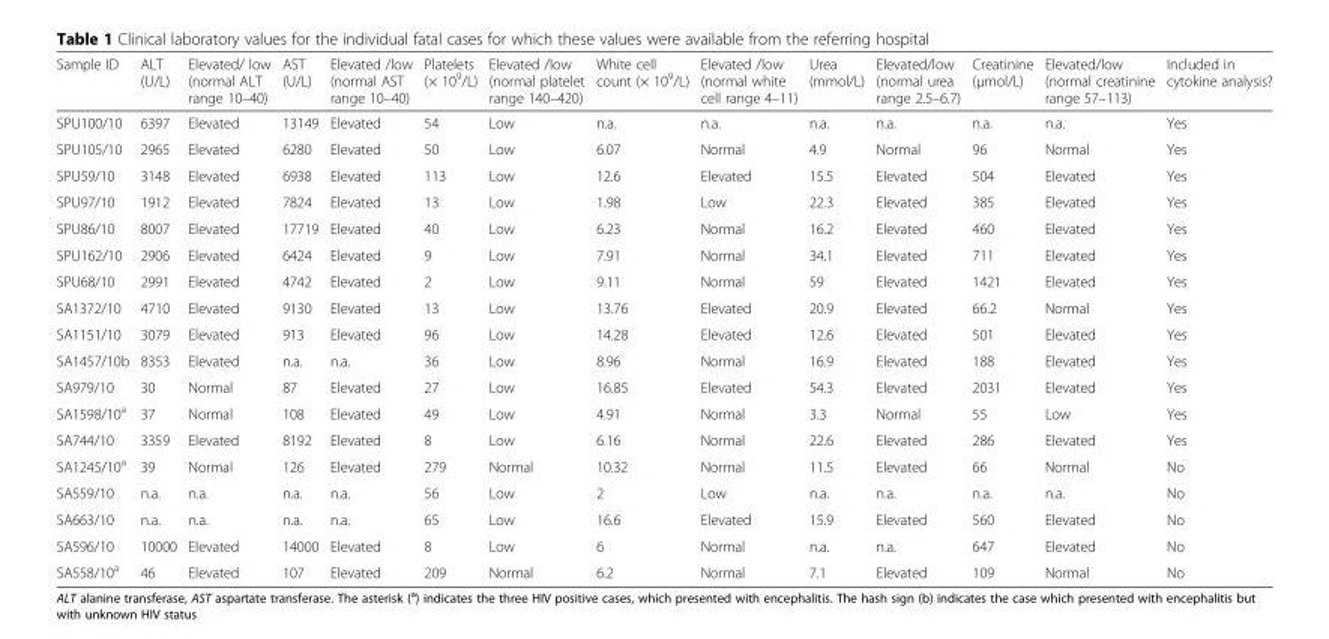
<table><thead><tr><td>Sample ID</td><td>ALT (U/L)</td><td>Elevated/ low (normal ALT range 10–40)</td><td>AST (U/L)</td><td>Elevated /low (normal AST range 10–40)</td><td>Platelets (× 10<sup>9</sup>/L)</td><td>Elevated /low (normal platelet range 140–420)</td><td>White cell count (× 10<sup>9</sup>/L)</td><td>Elevated /low (normal white cell range 4–11)</td><td>Urea (mmol/L)</td><td>Elevated/low (normal urea range 2.5–6.7)</td><td>Creatinine (μmol/L)</td><td>Elevated/low (normal creatinine range 57–113)</td><td>Included in cytokine analysis?</td></tr></thead><tbody><tr><td>SPU100/10</td><td>6397</td><td>Elevated</td><td>13149</td><td>Elevated</td><td>54</td><td>Low</td><td>n.a.</td><td>n.a.</td><td>n.a.</td><td>n.a.</td><td>n.a.</td><td>n.a.</td><td>Yes</td></tr><tr><td>SPU105/10</td><td>2965</td><td>Elevated</td><td>6280</td><td>Elevated</td><td>50</td><td>Low</td><td>6.07</td><td>Normal</td><td>4.9</td><td>Normal</td><td>96</td><td>Normal</td><td>Yes</td></tr><tr><td>SPU59/10</td><td>3148</td><td>Elevated</td><td>6938</td><td>Elevated</td><td>113</td><td>Low</td><td>12.6</td><td>Elevated</td><td>15.5</td><td>Elevated</td><td>504</td><td>Elevated</td><td>Yes</td></tr><tr><td>SPU97/10</td><td>1912</td><td>Elevated</td><td>7824</td><td>Elevated</td><td>13</td><td>Low</td><td>1.98</td><td>Low</td><td>22.3</td><td>Elevated</td><td>385</td><td>Elevated</td><td>Yes</td></tr><tr><td>SPU86/10</td><td>8007</td><td>Elevated</td><td>17719</td><td>Elevated</td><td>40</td><td>Low</td><td>6.23</td><td>Normal</td><td>16.2</td><td>Elevated</td><td>460</td><td>Elevated</td><td>Yes</td></tr><tr><td>SPU162/10</td><td>2906</td><td>Elevated</td><td>6424</td><td>Elevated</td><td>9</td><td>Low</td><td>7.91</td><td>Normal</td><td>34.1</td><td>Elevated</td><td>711</td><td>Elevated</td><td>Yes</td></tr><tr><td>SPU68/10</td><td>2991</td><td>Elevated</td><td>4742</td><td>Elevated</td><td>2</td><td>Low</td><td>9.11</td><td>Normal</td><td>59</td><td>Elevated</td><td>1421</td><td>Elevated</td><td>Yes</td></tr><tr><td>SA1372/10</td><td>4710</td><td>Elevated</td><td>9130</td><td>Elevated</td><td>13</td><td>Low</td><td>13.76</td><td>Elevated</td><td>20.9</td><td>Elevated</td><td>66.2</td><td>Normal</td><td>Yes</td></tr><tr><td>SA1151/10</td><td>3079</td><td>Elevated</td><td>913</td><td>Elevated</td><td>96</td><td>Low</td><td>14.28</td><td>Elevated</td><td>12.6</td><td>Elevated</td><td>501</td><td>Elevated</td><td>Yes</td></tr><tr><td>SA1457/10b</td><td>8353</td><td>Elevated</td><td>n.a.</td><td>n.a.</td><td>36</td><td>Low</td><td>8.96</td><td>Normal</td><td>16.9</td><td>Elevated</td><td>188</td><td>Elevated</td><td>Yes</td></tr><tr><td>SA979/10</td><td>30</td><td>Normal</td><td>87</td><td>Elevated</td><td>27</td><td>Low</td><td>16.85</td><td>Elevated</td><td>54.3</td><td>Elevated</td><td>2031</td><td>Elevated</td><td>Yes</td></tr><tr><td>SA1598/10<sup>a</sup></td><td>37</td><td>Normal</td><td>108</td><td>Elevated</td><td>49</td><td>Low</td><td>4.91</td><td>Normal</td><td>3.3</td><td>Normal</td><td>55</td><td>Low</td><td>Yes</td></tr><tr><td>SA744/10</td><td>3359</td><td>Elevated</td><td>8192</td><td>Elevated</td><td>8</td><td>Low</td><td>6.16</td><td>Normal</td><td>22.6</td><td>Elevated</td><td>286</td><td>Elevated</td><td>Yes</td></tr><tr><td>SA1245/10<sup>a</sup></td><td>39</td><td>Normal</td><td>126</td><td>Elevated</td><td>279</td><td>Normal</td><td>10.32</td><td>Normal</td><td>11.5</td><td>Elevated</td><td>66</td><td>Normal</td><td>No</td></tr><tr><td>SA559/10</td><td>n.a.</td><td>n.a.</td><td>n.a.</td><td>n.a.</td><td>56</td><td>Low</td><td>2</td><td>Low</td><td>n.a.</td><td>n.a.</td><td>n.a.</td><td>n.a.</td><td>No</td></tr><tr><td>SA663/10</td><td>n.a.</td><td>n.a.</td><td>n.a.</td><td>n.a.</td><td>65</td><td>Low</td><td>16.6</td><td>Elevated</td><td>15.9</td><td>Elevated</td><td>560</td><td>Elevated</td><td>No</td></tr><tr><td>SA596/10</td><td>10000</td><td>Elevated</td><td>14000</td><td>Elevated</td><td>8</td><td>Low</td><td>6</td><td>Normal</td><td>n.a.</td><td>n.a.</td><td>647</td><td>Elevated</td><td>No</td></tr><tr><td>SA558/10<sup>a</sup></td><td>46</td><td>Elevated</td><td>107</td><td>Elevated</td><td>209</td><td>Normal</td><td>6.2</td><td>Normal</td><td>7.1</td><td>Elevated</td><td>109</td><td>Normal</td><td>No</td></tr></tbody></table>